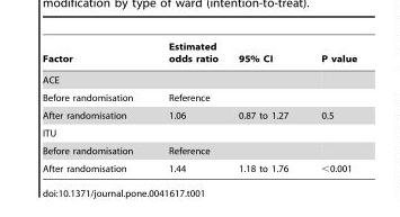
<table><thead><tr><td>Factor</td><td>Estimated odds ratio</td><td>95% CI</td><td>P value</td></tr></thead><tbody><tr><td colspan="4">ACE</td></tr><tr><td>Before randomisation</td><td>Reference</td><td></td><td></td></tr><tr><td>After randomisation</td><td>1.06</td><td>0.87 to 1.27</td><td>0.5</td></tr><tr><td colspan="4">ITU</td></tr><tr><td>Before randomisation</td><td>Reference</td><td></td><td></td></tr><tr><td>After randomisation</td><td>1.44</td><td>1.18 to 1.76</td><td>&lt;0.001</td></tr></tbody></table>